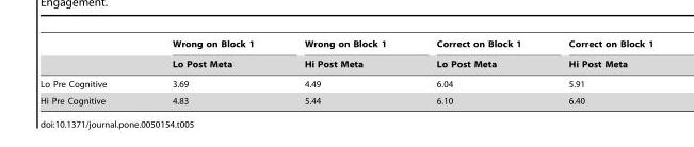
<table><thead><tr><td rowspan="2"></td><td rowspan="2">Wrong on Block 1 Lo Post Meta</td><td rowspan="2">Wrong on Block 1 Hi Post Meta</td><td rowspan="2">Correct on Block 1 Lo Post Meta</td><td rowspan="2">Correct on Block 1 Hi Post Meta</td></tr><tr></tr></thead><tbody><tr><td>Lo Pre Cognitive</td><td>3.69</td><td>4.49</td><td>6.04</td><td>5.91</td></tr><tr><td>Hi Pre Cognitive</td><td>4.83</td><td>5.44</td><td>6.10</td><td>6.40</td></tr></tbody></table>